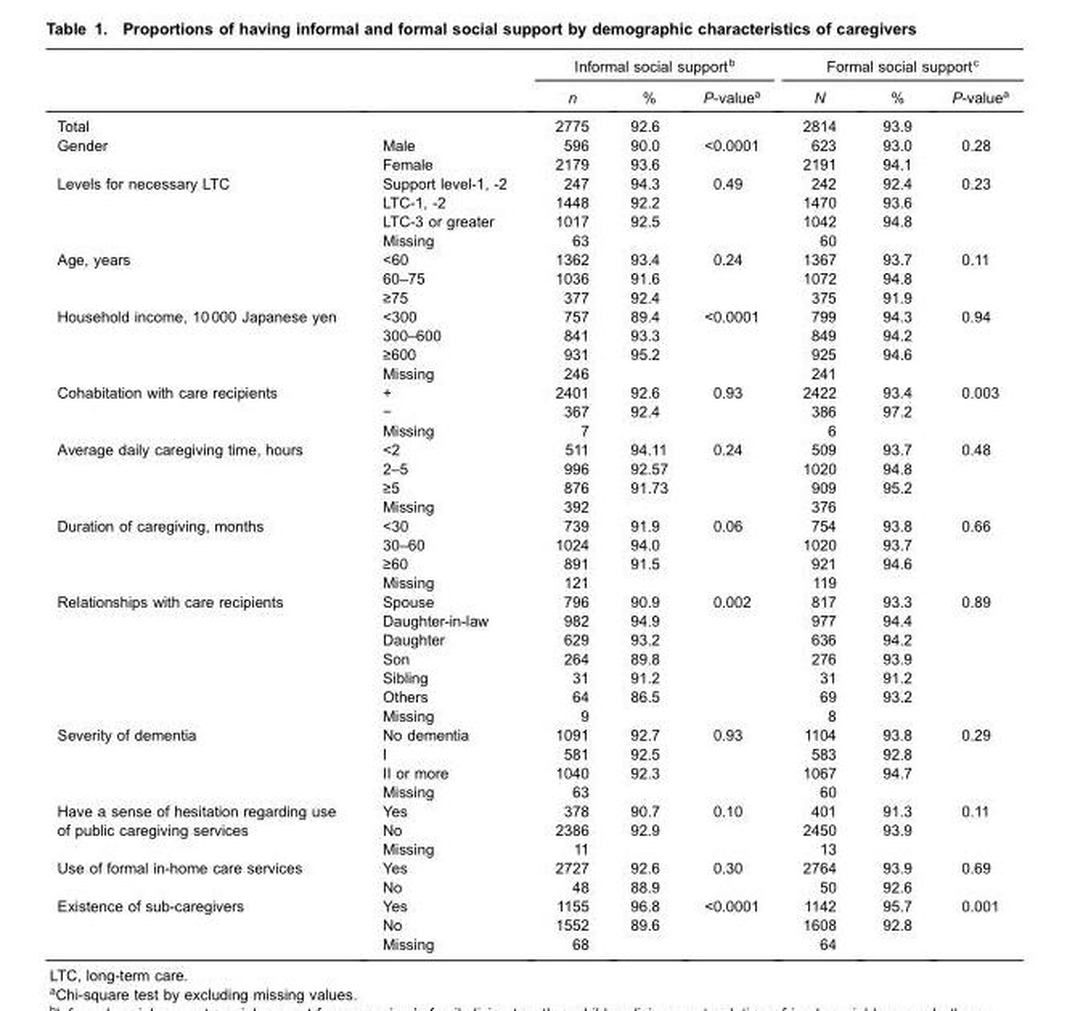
<table><thead><tr><td rowspan="2"></td><td rowspan="2"></td><td colspan="3">Informal social support<sup>b</sup></td><td colspan="3">Formal social support<sup>c</sup></td></tr><tr><td>n</td><td>%</td><td>P-value<sup>a</sup></td><td>N</td><td>%</td><td>P-value<sup>a</sup></td></tr></thead><tbody><tr><td>Total</td><td></td><td>2775</td><td>92.6</td><td></td><td>2814</td><td>93.9</td><td></td></tr><tr><td rowspan="2">Gender</td><td>Male</td><td>596</td><td>90.0</td><td>&lt;0.0001</td><td>623</td><td>93.0</td><td>0.28</td></tr><tr><td>Female</td><td>2179</td><td>93.6</td><td></td><td>2191</td><td>94.1</td><td></td></tr><tr><td rowspan="4">Levels for necessary LTC</td><td>Support level-1, -2</td><td>247</td><td>94.3</td><td>0.49</td><td>242</td><td>92.4</td><td>0.23</td></tr><tr><td>LTC-1, -2</td><td>1448</td><td>92.2</td><td></td><td>1470</td><td>93.6</td><td></td></tr><tr><td>LTC-3 or greater</td><td>1017</td><td>92.5</td><td></td><td>1042</td><td>94.8</td><td></td></tr><tr><td>Missing</td><td>63</td><td></td><td></td><td>60</td><td></td><td></td></tr><tr><td rowspan="3">Age, years</td><td>&lt;60</td><td>1362</td><td>93.4</td><td>0.24</td><td>1367</td><td>93.7</td><td>0.11</td></tr><tr><td>60–75</td><td>1036</td><td>91.6</td><td></td><td>1072</td><td>94.8</td><td></td></tr><tr><td>≥75</td><td>377</td><td>92.4</td><td></td><td>375</td><td>91.9</td><td></td></tr><tr><td rowspan="4">Household income, 10 000 Japanese yen</td><td>&lt;300</td><td>757</td><td>89.4</td><td>&lt;0.0001</td><td>799</td><td>94.3</td><td>0.94</td></tr><tr><td>300–600</td><td>841</td><td>93.3</td><td></td><td>849</td><td>94.2</td><td></td></tr><tr><td>≥600</td><td>931</td><td>95.2</td><td></td><td>925</td><td>94.6</td><td></td></tr><tr><td>Missing</td><td>246</td><td></td><td></td><td>241</td><td></td><td></td></tr><tr><td rowspan="3">Cohabitation with care recipients</td><td>+</td><td>2401</td><td>92.6</td><td>0.93</td><td>2422</td><td>93.4</td><td>0.003</td></tr><tr><td>−</td><td>367</td><td>92.4</td><td></td><td>386</td><td>97.2</td><td></td></tr><tr><td>Missing</td><td>7</td><td></td><td></td><td>6</td><td></td><td></td></tr><tr><td rowspan="4">Average daily caregiving time, hours</td><td>&lt;2</td><td>511</td><td>94.11</td><td>0.24</td><td>509</td><td>93.7</td><td>0.48</td></tr><tr><td>2–5</td><td>996</td><td>92.57</td><td></td><td>1020</td><td>94.8</td><td></td></tr><tr><td>≥5</td><td>876</td><td>91.73</td><td></td><td>909</td><td>95.2</td><td></td></tr><tr><td>Missing</td><td>392</td><td></td><td></td><td>376</td><td></td><td></td></tr><tr><td rowspan="4">Duration of caregiving, months</td><td>&lt;30</td><td>739</td><td>91.9</td><td>0.06</td><td>754</td><td>93.8</td><td>0.66</td></tr><tr><td>30–60</td><td>1024</td><td>94.0</td><td></td><td>1020</td><td>93.7</td><td></td></tr><tr><td>≥60</td><td>891</td><td>91.5</td><td></td><td>921</td><td>94.6</td><td></td></tr><tr><td>Missing</td><td>121</td><td></td><td></td><td>119</td><td></td><td></td></tr><tr><td rowspan="7">Relationships with care recipients</td><td>Spouse</td><td>796</td><td>90.9</td><td>0.002</td><td>817</td><td>93.3</td><td>0.89</td></tr><tr><td>Daughter-in-law</td><td>982</td><td>94.9</td><td></td><td>977</td><td>94.4</td><td></td></tr><tr><td>Daughter</td><td>629</td><td>93.2</td><td></td><td>636</td><td>94.2</td><td></td></tr><tr><td>Son</td><td>264</td><td>89.8</td><td></td><td>276</td><td>93.9</td><td></td></tr><tr><td>Sibling</td><td>31</td><td>91.2</td><td></td><td>31</td><td>91.2</td><td></td></tr><tr><td>Others</td><td>64</td><td>86.5</td><td></td><td>69</td><td>93.2</td><td></td></tr><tr><td>Missing</td><td>9</td><td></td><td></td><td>8</td><td></td><td></td></tr><tr><td rowspan="4">Severity of dementia</td><td>No dementia</td><td>1091</td><td>92.7</td><td>0.93</td><td>1104</td><td>93.8</td><td>0.29</td></tr><tr><td>I</td><td>581</td><td>92.5</td><td></td><td>583</td><td>92.8</td><td></td></tr><tr><td>II or more</td><td>1040</td><td>92.3</td><td></td><td>1067</td><td>94.7</td><td></td></tr><tr><td>Missing</td><td>63</td><td></td><td></td><td>60</td><td></td><td></td></tr><tr><td rowspan="3">Have a sense of hesitation regarding use of public caregiving services</td><td>Yes</td><td>378</td><td>90.7</td><td>0.10</td><td>401</td><td>91.3</td><td>0.11</td></tr><tr><td>No</td><td>2386</td><td>92.9</td><td></td><td>2450</td><td>93.9</td><td></td></tr><tr><td>Missing</td><td>11</td><td></td><td></td><td>13</td><td></td><td></td></tr><tr><td rowspan="2">Use of formal in-home care services</td><td>Yes</td><td>2727</td><td>92.6</td><td>0.30</td><td>2764</td><td>93.9</td><td>0.69</td></tr><tr><td>No</td><td>48</td><td>88.9</td><td></td><td>50</td><td>92.6</td><td></td></tr><tr><td rowspan="3">Existence of sub-caregivers</td><td>Yes</td><td>1155</td><td>96.8</td><td>&lt;0.0001</td><td>1142</td><td>95.7</td><td>0.001</td></tr><tr><td>No</td><td>1552</td><td>89.6</td><td></td><td>1608</td><td>92.8</td><td></td></tr><tr><td>Missing</td><td>68</td><td></td><td></td><td>64</td><td></td><td></td></tr></tbody></table>